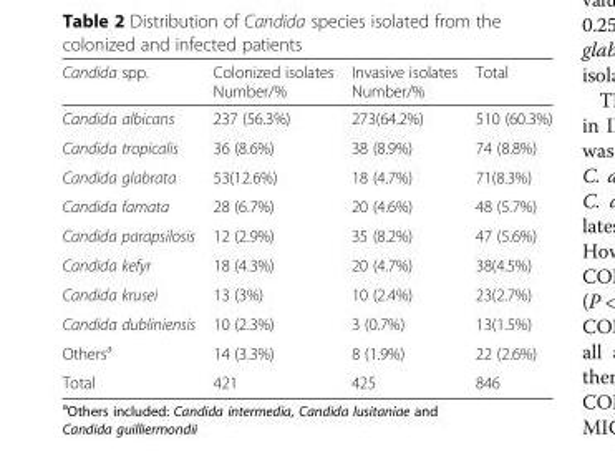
<table><thead><tr><td>Candida spp.</td><td>Colonized isolates Number/%</td><td>Invasive isolates Number/%</td><td>Total</td></tr></thead><tbody><tr><td>Candida albicans</td><td>237 (56.3%)</td><td>273(64.2%)</td><td>510 (60.3%)</td></tr><tr><td>Candida tropicalis</td><td>36 (8.6%)</td><td>38 (8.9%)</td><td>74 (8.8%)</td></tr><tr><td>Candida glabrata</td><td>53(12.6%)</td><td>18 (4.7%)</td><td>71(8.3%)</td></tr><tr><td>Candida famata</td><td>28 (6.7%)</td><td>20 (4.6%)</td><td>48 (5.7%)</td></tr><tr><td>Candida parapsilosis</td><td>12 (2.9%)</td><td>35 (8.2%)</td><td>47 (5.6%)</td></tr><tr><td>Candida kefyr</td><td>18 (4.3%)</td><td>20 (4.7%)</td><td>38(4.5%)</td></tr><tr><td>Candida krusei</td><td>13 (3%)</td><td>10 (2.4%)</td><td>23(2.7%)</td></tr><tr><td>Candida dubliniensis</td><td>10 (2.3%)</td><td>3 (0.7%)</td><td>13(1.5%)</td></tr><tr><td>Others<sup>a</sup></td><td>14 (3.3%)</td><td>8 (1.9%)</td><td>22 (2.6%)</td></tr><tr><td>Total</td><td>421</td><td>425</td><td>846</td></tr></tbody></table>